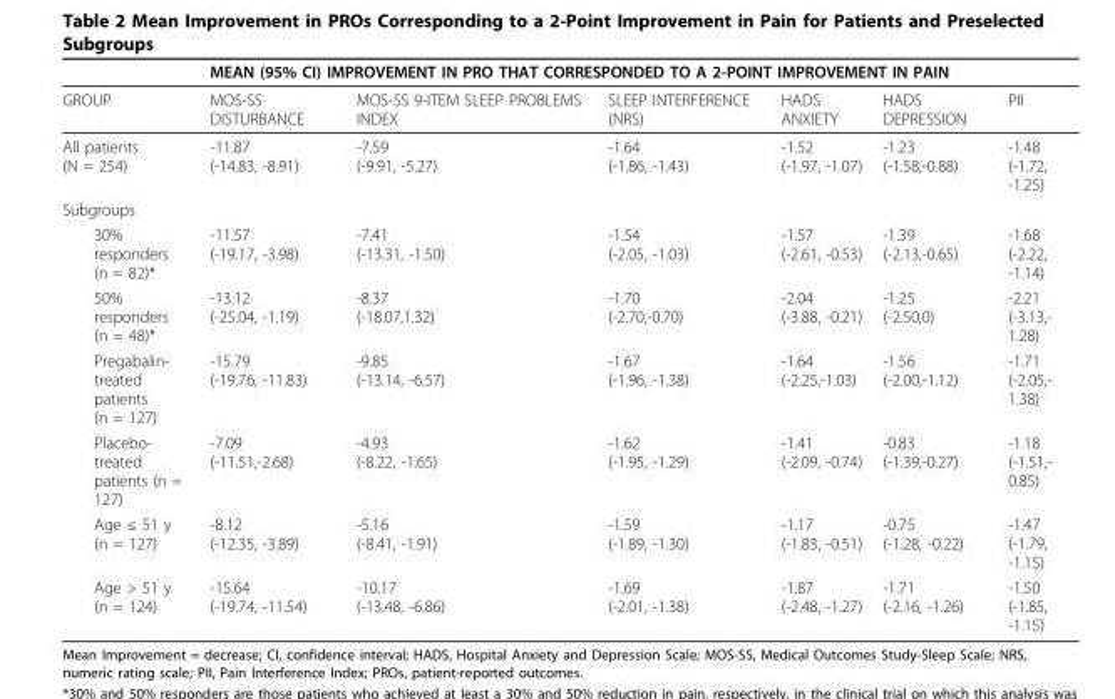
<table><thead><tr><td rowspan="2">GROUP</td><td colspan="6">MEAN (95% CI) IMPROVEMENT IN PRO THAT CORRESPONDED TO A 2-POINT IMPROVEMENT IN PAIN</td></tr><tr><td>MOS-SS DISTURBANCE</td><td>MOS-SS 9-ITEM SLEEP PROBLEMS INDEX</td><td>SLEEP INTERFERENCE (NRS)</td><td>HADS ANXIETY</td><td>HADS DEPRESSION</td><td>PII</td></tr></thead><tbody><tr><td>All patients (N = 254)</td><td>-11.87 (-14.83, -8.91)</td><td>-7.59 (-9.91, -5.27)</td><td>-1.64 (-1.86, -1.43)</td><td>-1.52 (-1.97, -1.07)</td><td>-1.23 (-1.58,-0.88)</td><td>-1.48 (-1.72, -1.25)</td></tr><tr><td colspan="7">Subgroups</td></tr><tr><td>30% responders (n = 82)*</td><td>-11.57 (-19.17, -3.98)</td><td>-7.41 (-13.31, -1.50)</td><td>-1.54 (-2.05, -1.03)</td><td>-1.57 (-2.61, -0.53)</td><td>-1.39 (-2.13,-0.65)</td><td>-1.68 (-2.22, -1.14)</td></tr><tr><td>50% responders (n = 48)*</td><td>-13.12 (-25.04, -1.19)</td><td>-8.37 (-18.07,1.32)</td><td>-1.70 (-2.70,-0.70)</td><td>-2.04 (-3.88, -0.21)</td><td>-1.25 (-2.50,0)</td><td>-2.21 (-3.13,- 1.28)</td></tr><tr><td>Pregabalin- treated patients (n = 127)</td><td>-15.79 (-19.76, -11.83)</td><td>-9.85 (-13.14, -6.57)</td><td>-1.67 (-1.96, -1.38)</td><td>-1.64 (-2.25,-1.03)</td><td>-1.56 (-2.00,-1.12)</td><td>-1.71 (-2.05,- 1.38)</td></tr><tr><td>Placebo- treated patients (n = 127)</td><td>-7.09 (-11.51,-2.68)</td><td>-4.93 (-8.22, -1.65)</td><td>-1.62 (-1.95, -1.29)</td><td>-1.41 (-2.09, -0.74)</td><td>-0.83 (-1.39,-0.27)</td><td>-1.18 (-1.51,- 0.85)</td></tr><tr><td>Age ≤ 51 y (n = 127)</td><td>-8.12 (-12.35, -3.89)</td><td>-5.16 (-8.41, -1.91)</td><td>-1.59 (-1.89, -1.30)</td><td>-1.17 (-1.83, -0.51)</td><td>-0.75 (-1.28, -0.22)</td><td>-1.47 (-1.79, -1.15)</td></tr><tr><td>Age &gt; 51 y (n = 124)</td><td>-15.64 (-19.74, -11.54)</td><td>-10.17 (-13.48, -6.86)</td><td>-1.69 (-2.01, -1.38)</td><td>-1.87 (-2.48, -1.27)</td><td>-1.71 (-2.16, -1.26)</td><td>-1.50 (-1.85, -1.15)</td></tr></tbody></table>